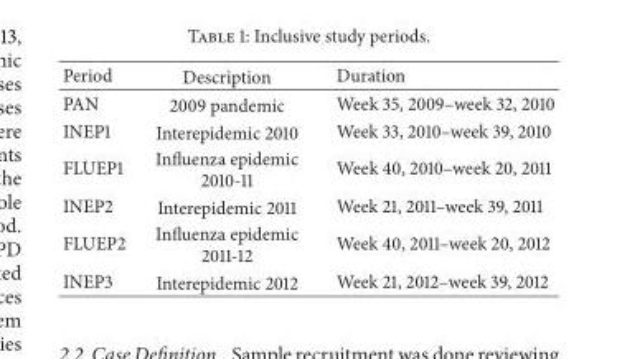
<table><thead><tr><td>Period</td><td>Description</td><td>Duration</td></tr></thead><tbody><tr><td>PAN</td><td>2009 pandemic</td><td>Week 35, 2009–week 32, 2010</td></tr><tr><td>INEP1</td><td>Interepidemic 2010</td><td>Week 33, 2010–week 39, 2010</td></tr><tr><td>FLUEP1</td><td>Influenza epidemic 2010-11</td><td>Week 40, 2010–week 20, 2011</td></tr><tr><td>INEP2</td><td>Interepidemic 2011</td><td>Week 21, 2011–week 39, 2011</td></tr><tr><td>FLUEP2</td><td>Influenza epidemic 2011-12</td><td>Week 40, 2011–week 20, 2012</td></tr><tr><td>INEP3</td><td>Interepidemic 2012</td><td>Week 21, 2012–week 39, 2012</td></tr></tbody></table>